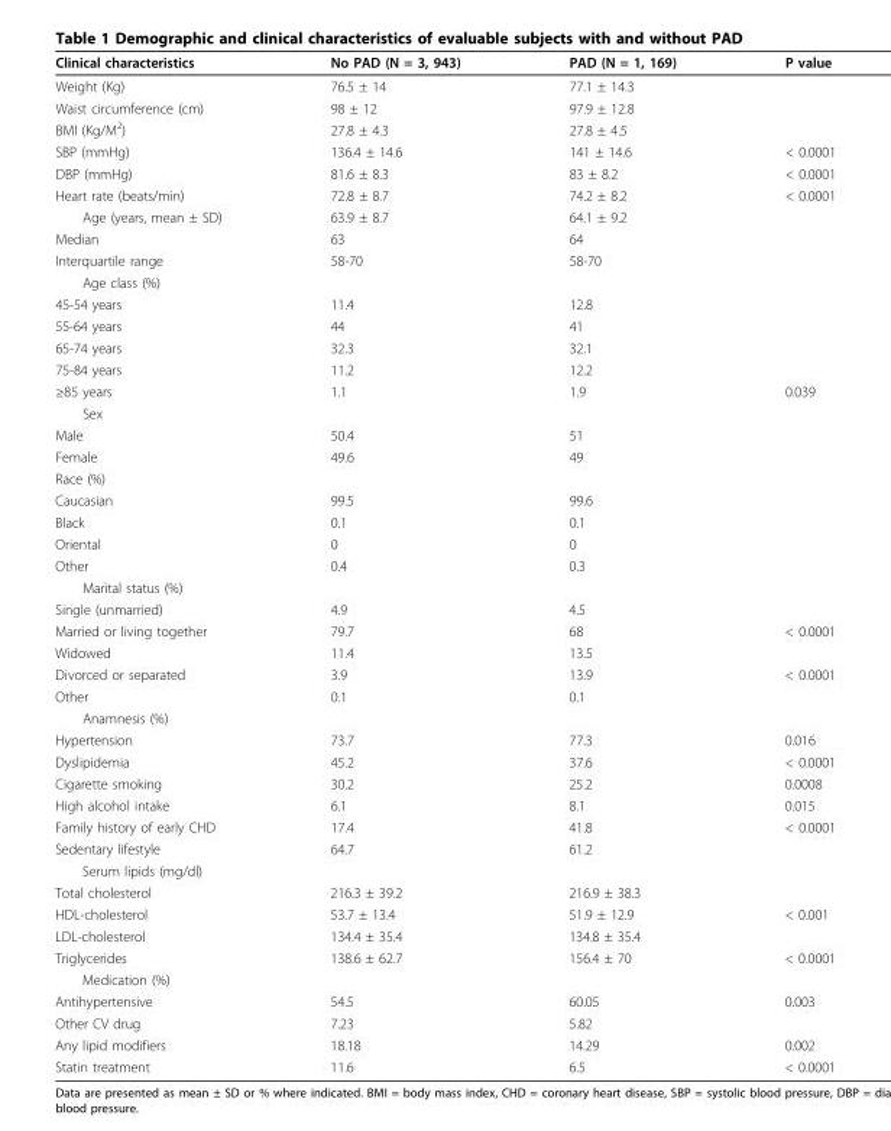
<table><thead><tr><td>Clinical characteristics</td><td>No PAD (N = 3, 943)</td><td>PAD (N = 1, 169)</td><td>P value</td></tr></thead><tbody><tr><td>Weight (Kg)</td><td>76.5 ± 14</td><td>77.1 ± 14.3</td><td></td></tr><tr><td>Waist circumference (cm)</td><td>98 ± 12</td><td>97.9 ± 12.8</td><td></td></tr><tr><td>BMI (Kg/M<sup>2</sup>)</td><td>27.8 ± 4.3</td><td>27.8 ± 4.5</td><td></td></tr><tr><td>SBP (mmHg)</td><td>136.4 ± 14.6</td><td>141 ± 14.6</td><td>&lt; 0.0001</td></tr><tr><td>DBP (mmHg)</td><td>81.6 ± 8.3</td><td>83 ± 8.2</td><td>&lt; 0.0001</td></tr><tr><td>Heart rate (beats/min)</td><td>72.8 ± 8.7</td><td>74.2 ± 8.2</td><td>&lt; 0.0001</td></tr><tr><td>Age (years, mean ± SD)</td><td>63.9 ± 8.7</td><td>64.1 ± 9.2</td><td></td></tr><tr><td>Median</td><td>63</td><td>64</td><td></td></tr><tr><td>Interquartile range</td><td>58-70</td><td>58-70</td><td></td></tr><tr><td colspan="4">Age class (%)</td></tr><tr><td>45-54 years</td><td>11.4</td><td>12.8</td><td></td></tr><tr><td>55-64 years</td><td>44</td><td>41</td><td></td></tr><tr><td>65-74 years</td><td>32.3</td><td>32.1</td><td></td></tr><tr><td>75-84 years</td><td>11.2</td><td>12.2</td><td></td></tr><tr><td>≥85 years</td><td>1.1</td><td>1.9</td><td>0.039</td></tr><tr><td colspan="4">Sex</td></tr><tr><td>Male</td><td>50.4</td><td>51</td><td></td></tr><tr><td>Female</td><td>49.6</td><td>49</td><td></td></tr><tr><td colspan="4">Race (%)</td></tr><tr><td>Caucasian</td><td>99.5</td><td>99.6</td><td></td></tr><tr><td>Black</td><td>0.1</td><td>0.1</td><td></td></tr><tr><td>Oriental</td><td>0</td><td>0</td><td></td></tr><tr><td>Other</td><td>0.4</td><td>0.3</td><td></td></tr><tr><td colspan="4">Marital status (%)</td></tr><tr><td>Single (unmarried)</td><td>4.9</td><td>4.5</td><td></td></tr><tr><td>Married or living together</td><td>79.7</td><td>68</td><td>&lt; 0.0001</td></tr><tr><td>Widowed</td><td>11.4</td><td>13.5</td><td></td></tr><tr><td>Divorced or separated</td><td>3.9</td><td>13.9</td><td>&lt; 0.0001</td></tr><tr><td>Other</td><td>0.1</td><td>0.1</td><td></td></tr><tr><td colspan="4">Anamnesis (%)</td></tr><tr><td>Hypertension</td><td>73.7</td><td>77.3</td><td>0.016</td></tr><tr><td>Dyslipidemia</td><td>45.2</td><td>37.6</td><td>&lt; 0.0001</td></tr><tr><td>Cigarette smoking</td><td>30.2</td><td>25.2</td><td>0.0008</td></tr><tr><td>High alcohol intake</td><td>6.1</td><td>8.1</td><td>0.015</td></tr><tr><td>Family history of early CHD</td><td>17.4</td><td>41.8</td><td>&lt; 0.0001</td></tr><tr><td>Sedentary lifestyle</td><td>64.7</td><td>61.2</td><td></td></tr><tr><td colspan="4">Serum lipids (mg/dl)</td></tr><tr><td>Total cholesterol</td><td>216.3 ± 39.2</td><td>216.9 ± 38.3</td><td></td></tr><tr><td>HDL-cholesterol</td><td>53.7 ± 13.4</td><td>51.9 ± 12.9</td><td>&lt; 0.001</td></tr><tr><td>LDL-cholesterol</td><td>134.4 ± 35.4</td><td>134.8 ± 35.4</td><td></td></tr><tr><td>Triglycerides</td><td>138.6 ± 62.7</td><td>156.4 ± 70</td><td>&lt; 0.0001</td></tr><tr><td colspan="4">Medication (%)</td></tr><tr><td>Antihypertensive</td><td>54.5</td><td>60.05</td><td>0.003</td></tr><tr><td>Other CV drug</td><td>7.23</td><td>5.82</td><td></td></tr><tr><td>Any lipid modifiers</td><td>18.18</td><td>14.29</td><td>0.002</td></tr><tr><td>Statin treatment</td><td>11.6</td><td>6.5</td><td>&lt; 0.0001</td></tr></tbody></table>